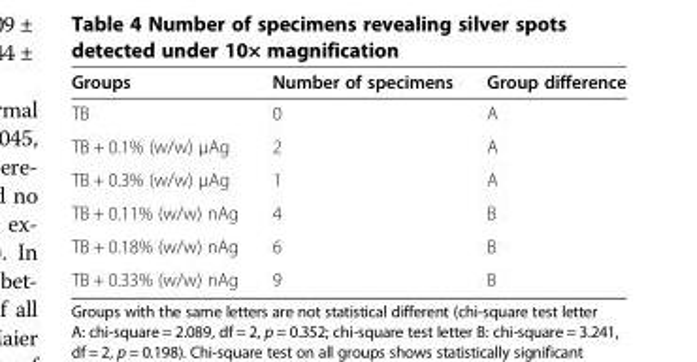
<table><thead><tr><td>Groups</td><td>Number of specimens</td><td>Group difference</td></tr></thead><tbody><tr><td>TB</td><td>0</td><td>A</td></tr><tr><td>TB + 0.1% (w/w) μAg</td><td>2</td><td>A</td></tr><tr><td>TB + 0.3% (w/w) μAg</td><td>1</td><td>A</td></tr><tr><td>TB + 0.11% (w/w) nAg</td><td>4</td><td>B</td></tr><tr><td>TB + 0.18% (w/w) nAg</td><td>6</td><td>B</td></tr><tr><td>TB + 0.33% (w/w) nAg</td><td>9</td><td>B</td></tr></tbody></table>